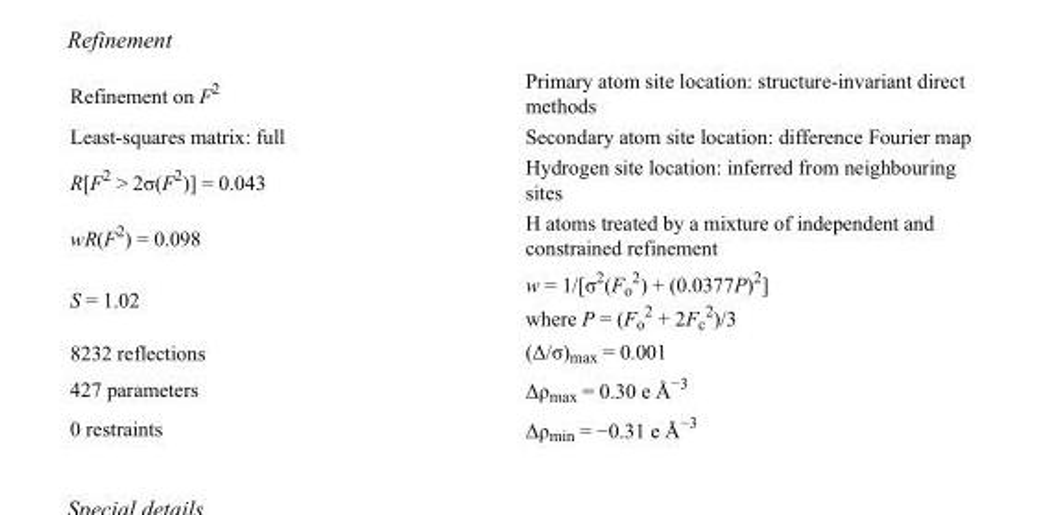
<table><tbody><tr><td>Refinement on F<sup>2</sup></td><td>Primary atom site location: structure-invariant direct methods</td></tr><tr><td>Least-squares matrix: full</td><td>Secondary atom site location: difference Fourier map</td></tr><tr><td>R[F<sup>2</sup> &gt; 2σ(F<sup>2</sup>)] = 0.043</td><td>Hydrogen site location: inferred from neighbouring sites</td></tr><tr><td>wR(F<sup>2</sup>) = 0.098</td><td>H atoms treated by a mixture of independent and constrained refinement</td></tr><tr><td>S = 1.02</td><td>w = 1/[σ<sup>2</sup>(F<sub>o</sub> <sup>2</sup>) + (0.0377P)<sup>2</sup>] where P = (F<sub>o</sub> <sup>2</sup> + 2F<sub>c</sub> <sup>2</sup>)/3</td></tr><tr><td>8232 reflections</td><td>(Δ/σ)<sub>max</sub> = 0.001</td></tr><tr><td>427 parameters</td><td>Δρ<sub>max</sub> = 0.30 e Å<sup>−3</sup></td></tr><tr><td>0 restraints</td><td>Δρ<sub>min</sub> = −0.31 e Å<sup>−3</sup></td></tr></tbody></table>